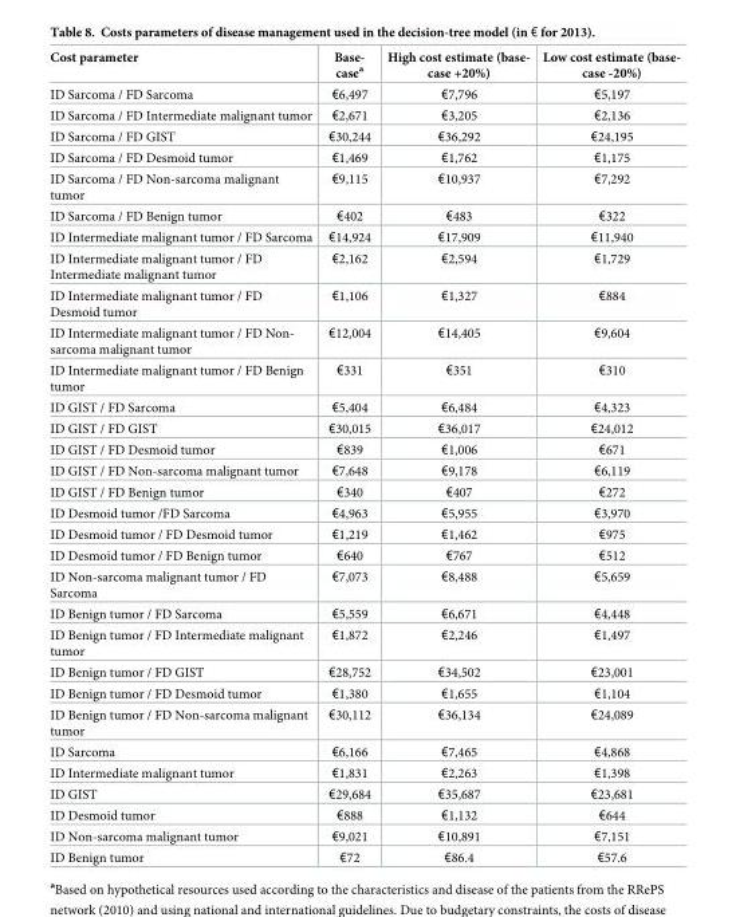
<table><thead><tr><td>Cost parameter</td><td>Base- case<sup>a</sup></td><td>High cost estimate (base- case +20%)</td><td>Low cost estimate (base- case -20%)</td></tr></thead><tbody><tr><td>ID Sarcoma / FD Sarcoma</td><td>€6,497</td><td>€7,796</td><td>€5,197</td></tr><tr><td>ID Sarcoma / FD Intermediate malignant tumor</td><td>€2,671</td><td>€3,205</td><td>€2,136</td></tr><tr><td>ID Sarcoma / FD GIST</td><td>€30,244</td><td>€36,292</td><td>€24,195</td></tr><tr><td>ID Sarcoma / FD Desmoid tumor</td><td>€1,469</td><td>€1,762</td><td>€1,175</td></tr><tr><td>ID Sarcoma / FD Non-sarcoma malignant tumor</td><td>€9,115</td><td>€10,937</td><td>€7,292</td></tr><tr><td>ID Sarcoma / FD Benign tumor</td><td>€402</td><td>€483</td><td>€322</td></tr><tr><td>ID Intermediate malignant tumor / FD Sarcoma</td><td>€14,924</td><td>€17,909</td><td>€11,940</td></tr><tr><td>ID Intermediate malignant tumor / FD Intermediate malignant tumor</td><td>€2,162</td><td>€2,594</td><td>€1,729</td></tr><tr><td>ID Intermediate malignant tumor / FD Desmoid tumor</td><td>€1,106</td><td>€1,327</td><td>€884</td></tr><tr><td>ID Intermediate malignant tumor / FD Non- sarcoma malignant tumor</td><td>€12,004</td><td>€14,405</td><td>€9,604</td></tr><tr><td>ID Intermediate malignant tumor / FD Benign tumor</td><td>€331</td><td>€351</td><td>€310</td></tr><tr><td>ID GIST / FD Sarcoma</td><td>€5,404</td><td>€6,484</td><td>€4,323</td></tr><tr><td>ID GIST / FD GIST</td><td>€30,015</td><td>€36,017</td><td>€24,012</td></tr><tr><td>ID GIST / FD Desmoid tumor</td><td>€839</td><td>€1,006</td><td>€671</td></tr><tr><td>ID GIST / FD Non-sarcoma malignant tumor</td><td>€7,648</td><td>€9,178</td><td>€6,119</td></tr><tr><td>ID GIST / FD Benign tumor</td><td>€340</td><td>€407</td><td>€272</td></tr><tr><td>ID Desmoid tumor /FD Sarcoma</td><td>€4,963</td><td>€5,955</td><td>€3,970</td></tr><tr><td>ID Desmoid tumor / FD Desmoid tumor</td><td>€1,219</td><td>€1,462</td><td>€975</td></tr><tr><td>ID Desmoid tumor / FD Benign tumor</td><td>€640</td><td>€767</td><td>€512</td></tr><tr><td>ID Non-sarcoma malignant tumor / FD Sarcoma</td><td>€7,073</td><td>€8,488</td><td>€5,659</td></tr><tr><td>ID Benign tumor / FD Sarcoma</td><td>€5,559</td><td>€6,671</td><td>€4,448</td></tr><tr><td>ID Benign tumor / FD Intermediate malignant tumor</td><td>€1,872</td><td>€2,246</td><td>€1,497</td></tr><tr><td>ID Benign tumor / FD GIST</td><td>€28,752</td><td>€34,502</td><td>€23,001</td></tr><tr><td>ID Benign tumor / FD Desmoid tumor</td><td>€1,380</td><td>€1,655</td><td>€1,104</td></tr><tr><td>ID Benign tumor / FD Non-sarcoma malignant tumor</td><td>€30,112</td><td>€36,134</td><td>€24,089</td></tr><tr><td>ID Sarcoma</td><td>€6,166</td><td>€7,465</td><td>€4,868</td></tr><tr><td>ID Intermediate malignant tumor</td><td>€1,831</td><td>€2,263</td><td>€1,398</td></tr><tr><td>ID GIST</td><td>€29,684</td><td>€35,687</td><td>€23,681</td></tr><tr><td>ID Desmoid tumor</td><td>€888</td><td>€1,132</td><td>€644</td></tr><tr><td>ID Non-sarcoma malignant tumor</td><td>€9,021</td><td>€10,891</td><td>€7,151</td></tr><tr><td>ID Benign tumor</td><td>€72</td><td>€86.4</td><td>€57.6</td></tr></tbody></table>